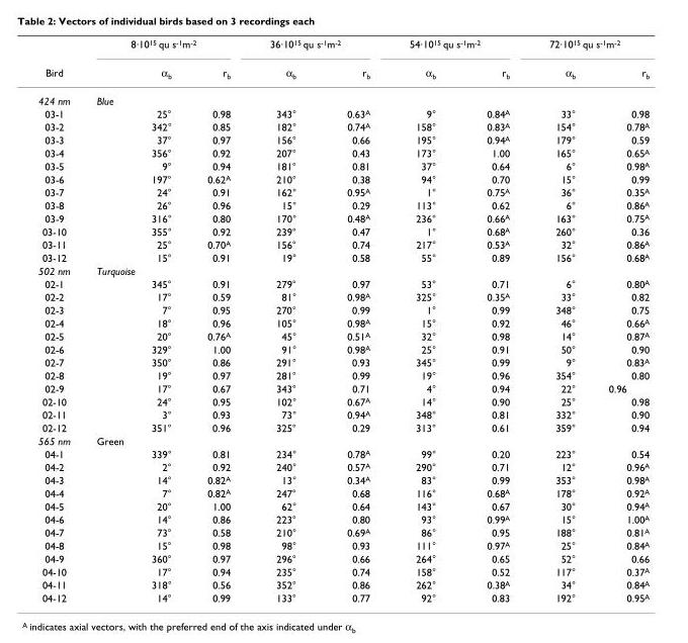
<table><thead><tr><td rowspan="2">Bird</td><td colspan="2">8·10<sup>15</sup> qu s<sup>-1</sup>m<sup>-2</sup></td><td colspan="2">36·10<sup>15</sup> qu s<sup>-1</sup>m<sup>-2</sup></td><td colspan="2">54·10<sup>15</sup> qu s<sup>-1</sup>m<sup>-2</sup></td><td colspan="2">72·10<sup>15</sup> qu s<sup>-1</sup>m<sup>-2</sup></td></tr><tr><td>α<sub>b</sub></td><td>r<sub>b</sub></td><td>α<sub>b</sub></td><td>r<sub>b</sub></td><td>α<sub>b</sub></td><td>r<sub>b</sub></td><td>α<sub>b</sub></td><td>r<sub>b</sub></td></tr></thead><tbody><tr><td>424 nm</td><td>Blue</td><td></td><td></td><td></td><td></td><td></td><td></td><td></td></tr><tr><td>03-1</td><td>25°</td><td>0.98</td><td>343°</td><td>0.63<sup>A</sup></td><td>9°</td><td>0.84<sup>A</sup></td><td>33°</td><td>0.98</td></tr><tr><td>03-2</td><td>342°</td><td>0.85</td><td>182°</td><td>0.74<sup>A</sup></td><td>158°</td><td>0.83<sup>A</sup></td><td>154°</td><td>0.78<sup>A</sup></td></tr><tr><td>03-3</td><td>37°</td><td>0.97</td><td>156°</td><td>0.66</td><td>195°</td><td>0.94<sup>A</sup></td><td>179°</td><td>0.59</td></tr><tr><td>03-4</td><td>356°</td><td>0.92</td><td>207°</td><td>0.43</td><td>173°</td><td>1.00</td><td>165°</td><td>0.65<sup>A</sup></td></tr><tr><td>03-5</td><td>9°</td><td>0.94</td><td>181°</td><td>0.81</td><td>37°</td><td>0.64</td><td>6°</td><td>0.98<sup>A</sup></td></tr><tr><td>03-6</td><td>197°</td><td>0.62<sup>A</sup></td><td>210°</td><td>0.38</td><td>94°</td><td>0.70</td><td>15°</td><td>0.99</td></tr><tr><td>03-7</td><td>24°</td><td>0.91</td><td>162°</td><td>0.95<sup>A</sup></td><td>1°</td><td>0.75<sup>A</sup></td><td>36°</td><td>0.35<sup>A</sup></td></tr><tr><td>03-8</td><td>26°</td><td>0.96</td><td>15°</td><td>0.29</td><td>113°</td><td>0.62</td><td>6°</td><td>0.86<sup>A</sup></td></tr><tr><td>03-9</td><td>316°</td><td>0.80</td><td>170°</td><td>0.48<sup>A</sup></td><td>236°</td><td>0.66<sup>A</sup></td><td>163°</td><td>0.75<sup>A</sup></td></tr><tr><td>03-10</td><td>355°</td><td>0.92</td><td>239°</td><td>0.47</td><td>1°</td><td>0.68<sup>A</sup></td><td>260°</td><td>0.36</td></tr><tr><td>03-11</td><td>25°</td><td>0.70<sup>A</sup></td><td>156°</td><td>0.74</td><td>217°</td><td>0.53<sup>A</sup></td><td>32°</td><td>0.86<sup>A</sup></td></tr><tr><td>03-12</td><td>15°</td><td>0.91</td><td>19°</td><td>0.58</td><td>55°</td><td>0.89</td><td>156°</td><td>0.68<sup>A</sup></td></tr><tr><td>502 nm</td><td>Turquoise</td><td></td><td></td><td></td><td></td><td></td><td></td><td></td></tr><tr><td>02-1</td><td>345°</td><td>0.91</td><td>279°</td><td>0.97</td><td>53°</td><td>0.71</td><td>6°</td><td>0.80<sup>A</sup></td></tr><tr><td>02-2</td><td>17°</td><td>0.59</td><td>81°</td><td>0.98<sup>A</sup></td><td>325°</td><td>0.35<sup>A</sup></td><td>33°</td><td>0.82</td></tr><tr><td>02-3</td><td>7°</td><td>0.95</td><td>270°</td><td>0.99</td><td>1°</td><td>0.99</td><td>348°</td><td>0.75</td></tr><tr><td>02-4</td><td>18°</td><td>0.96</td><td>105°</td><td>0.98<sup>A</sup></td><td>15°</td><td>0.92</td><td>46°</td><td>0.66<sup>A</sup></td></tr><tr><td>02-5</td><td>20°</td><td>0.76<sup>A</sup></td><td>45°</td><td>0.51<sup>A</sup></td><td>32°</td><td>0.98</td><td>14°</td><td>0.87<sup>A</sup></td></tr><tr><td>02-6</td><td>329°</td><td>1.00</td><td>91°</td><td>0.98<sup>A</sup></td><td>25°</td><td>0.91</td><td>50°</td><td>0.90</td></tr><tr><td>02-7</td><td>350°</td><td>0.86</td><td>291°</td><td>0.93</td><td>345°</td><td>0.99</td><td>9°</td><td>0.83<sup>A</sup></td></tr><tr><td>02-8</td><td>19°</td><td>0.97</td><td>281°</td><td>0.99</td><td>19°</td><td>0.96</td><td>354°</td><td>0.80</td></tr><tr><td>02-9</td><td>17°</td><td>0.67</td><td>343°</td><td>0.71</td><td>4°</td><td>0.94</td><td>22°</td><td>0.96</td></tr><tr><td>02-10</td><td>24°</td><td>0.95</td><td>102°</td><td>0.67<sup>A</sup></td><td>14°</td><td>0.90</td><td>25°</td><td>0.98</td></tr><tr><td>02-11</td><td>3°</td><td>0.93</td><td>73°</td><td>0.94<sup>A</sup></td><td>348°</td><td>0.81</td><td>332°</td><td>0.90</td></tr><tr><td>02-12</td><td>351°</td><td>0.96</td><td>325°</td><td>0.29</td><td>313°</td><td>0.61</td><td>359°</td><td>0.94</td></tr><tr><td>565 nm</td><td>Green</td><td></td><td></td><td></td><td></td><td></td><td></td><td></td></tr><tr><td>04-1</td><td>339°</td><td>0.81</td><td>234°</td><td>0.78<sup>A</sup></td><td>99°</td><td>0.20</td><td>223°</td><td>0.54</td></tr><tr><td>04-2</td><td>2°</td><td>0.92</td><td>240°</td><td>0.57<sup>A</sup></td><td>290°</td><td>0.71</td><td>12°</td><td>0.96<sup>A</sup></td></tr><tr><td>04-3</td><td>14°</td><td>0.82<sup>A</sup></td><td>13°</td><td>0.34<sup>A</sup></td><td>83°</td><td>0.99</td><td>353°</td><td>0.98<sup>A</sup></td></tr><tr><td>04-4</td><td>7°</td><td>0.82<sup>A</sup></td><td>247°</td><td>0.68</td><td>116°</td><td>0.68<sup>A</sup></td><td>178°</td><td>0.92<sup>A</sup></td></tr><tr><td>04-5</td><td>20°</td><td>1.00</td><td>62°</td><td>0.64</td><td>143°</td><td>0.67</td><td>30°</td><td>0.94<sup>A</sup></td></tr><tr><td>04-6</td><td>14°</td><td>0.86</td><td>223°</td><td>0.80</td><td>93°</td><td>0.99<sup>A</sup></td><td>15°</td><td>1.00<sup>A</sup></td></tr><tr><td>04-7</td><td>73°</td><td>0.58</td><td>210°</td><td>0.69<sup>A</sup></td><td>86°</td><td>0.95</td><td>188°</td><td>0.81<sup>A</sup></td></tr><tr><td>04-8</td><td>15°</td><td>0.98</td><td>98°</td><td>0.93</td><td>111°</td><td>0.97<sup>A</sup></td><td>25°</td><td>0.84<sup>A</sup></td></tr><tr><td>04-9</td><td>360°</td><td>0.97</td><td>296°</td><td>0.66</td><td>264°</td><td>0.65</td><td>52°</td><td>0.66</td></tr><tr><td>04-10</td><td>17°</td><td>0.94</td><td>235°</td><td>0.74</td><td>158°</td><td>0.52</td><td>117°</td><td>0.37<sup>A</sup></td></tr><tr><td>04-11</td><td>318°</td><td>0.56</td><td>352°</td><td>0.86</td><td>262°</td><td>0.38<sup>A</sup></td><td>34°</td><td>0.84<sup>A</sup></td></tr><tr><td>04-12</td><td>14°</td><td>0.99</td><td>133°</td><td>0.77</td><td>92°</td><td>0.83</td><td>192°</td><td>0.95<sup>A</sup></td></tr></tbody></table>